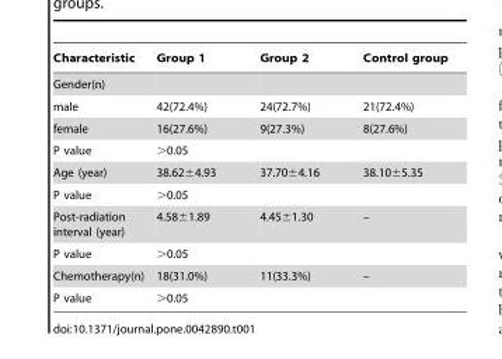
<table><thead><tr><td>Characteristic</td><td>Group 1</td><td>Group 2</td><td>Control group</td></tr></thead><tbody><tr><td colspan="4">Gender(n)</td></tr><tr><td>male</td><td>42(72.4%)</td><td>24(72.7%)</td><td>21(72.4%)</td></tr><tr><td>female</td><td>16(27.6%)</td><td>9(27.3%)</td><td>8(27.6%)</td></tr><tr><td>P value</td><td colspan="3">&gt;0.05</td></tr><tr><td>Age (year)</td><td>38.62±4.93</td><td>37.70±4.16</td><td>38.10±5.35</td></tr><tr><td>P value</td><td colspan="3">&gt;0.05</td></tr><tr><td>Post-radiation interval (year)</td><td>4.58±1.89</td><td>4.45±1.30</td><td>–</td></tr><tr><td>P value</td><td colspan="3">&gt;0.05</td></tr><tr><td>Chemotherapy(n)</td><td>18(31.0%)</td><td>11(33.3%)</td><td>–</td></tr><tr><td>P value</td><td colspan="3">&gt;0.05</td></tr></tbody></table>